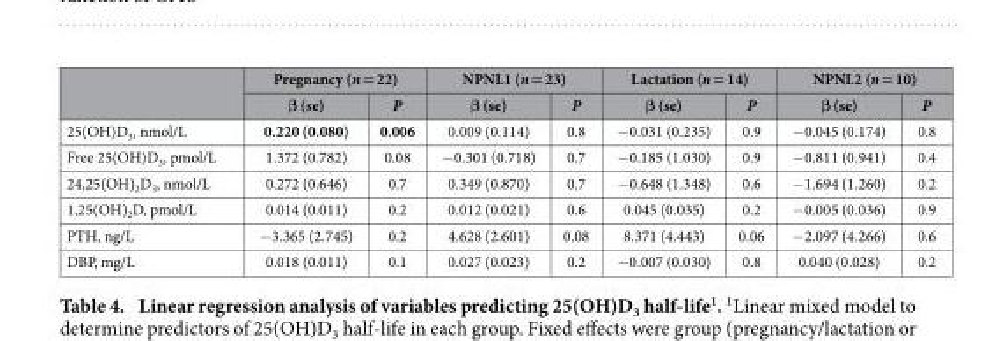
<table><thead><tr><td rowspan="2"></td><td colspan="2">Pregnancy (n = 22)</td><td colspan="2">NPNL1 (n = 23)</td><td colspan="2">Lactation (n = 14)</td><td colspan="2">NPNL2 (n = 10)</td></tr><tr><td>β (se)</td><td>P</td><td>β (se)</td><td>P</td><td>β (se)</td><td>P</td><td>β (se)</td><td>P</td></tr></thead><tbody><tr><td>25(OH)D<sub>3</sub>, nmol/L</td><td>0.220 (0.080)</td><td>0.006</td><td>0.009 (0.114)</td><td>0.8</td><td>− 0.031 (0.235)</td><td>0.9</td><td>− 0.045 (0.174)</td><td>0.8</td></tr><tr><td>Free 25(OH)D<sub>3</sub>, pmol/L</td><td>1.372 (0.782)</td><td>0.08</td><td>− 0.301 (0.718)</td><td>0.7</td><td>− 0.185 (1.030)</td><td>0.9</td><td>− 0.811 (0.941)</td><td>0.4</td></tr><tr><td>24,25(OH)<sub>2</sub>D<sub>3</sub>, nmol/L</td><td>0.272 (0.646)</td><td>0.7</td><td>0.349 (0.870)</td><td>0.7</td><td>− 0.648 (1.348)</td><td>0.6</td><td>− 1.694 (1.260)</td><td>0.2</td></tr><tr><td>1,25(OH)<sub>2</sub>D, pmol/L</td><td>0.014 (0.011)</td><td>0.2</td><td>0.012 (0.021)</td><td>0.6</td><td>0.045 (0.035)</td><td>0.2</td><td>− 0.005 (0.036)</td><td>0.9</td></tr><tr><td>PTH, ng/L</td><td>− 3.365 (2.745)</td><td>0.2</td><td>4.628 (2.601)</td><td>0.08</td><td>8.371 (4.443)</td><td>0.06</td><td>− 2.097 (4.266)</td><td>0.6</td></tr><tr><td>DBP, mg/L</td><td>0.018 (0.011)</td><td>0.1</td><td>0.027 (0.023)</td><td>0.2</td><td>− 0.007 (0.030)</td><td>0.8</td><td>0.040 (0.028)</td><td>0.2</td></tr></tbody></table>